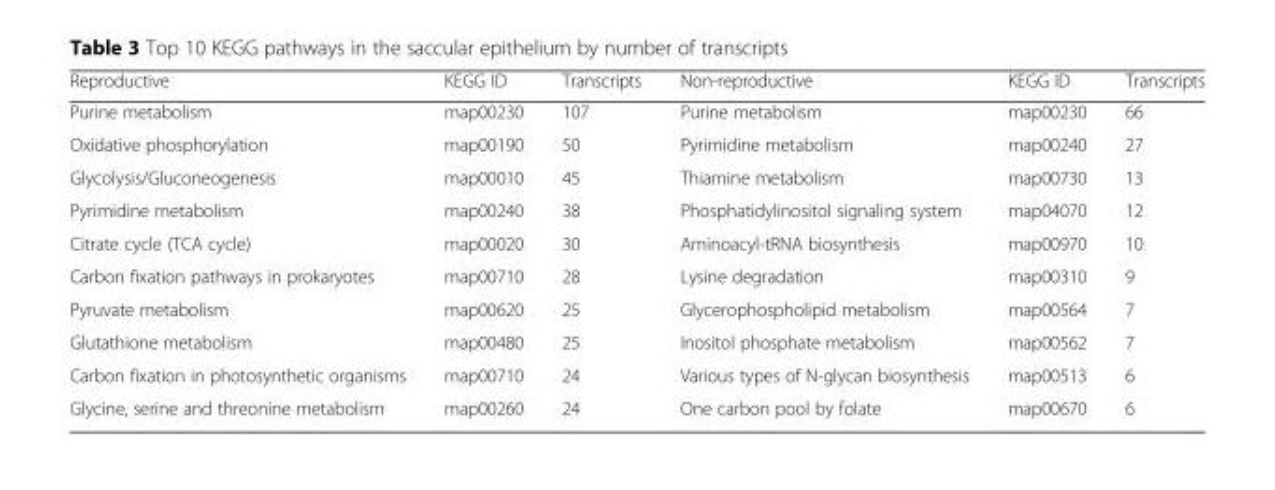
<table><thead><tr><td>Reproductive</td><td>KEGG ID</td><td>Transcripts</td><td>Non-reproductive</td><td>KEGG ID</td><td>Transcripts</td></tr></thead><tbody><tr><td>Purine metabolism</td><td>map00230</td><td>107</td><td>Purine metabolism</td><td>map00230</td><td>66</td></tr><tr><td>Oxidative phosphorylation</td><td>map00190</td><td>50</td><td>Pyrimidine metabolism</td><td>map00240</td><td>27</td></tr><tr><td>Glycolysis/Gluconeogenesis</td><td>map00010</td><td>45</td><td>Thiamine metabolism</td><td>map00730</td><td>13</td></tr><tr><td>Pyrimidine metabolism</td><td>map00240</td><td>38</td><td>Phosphatidylinositol signaling system</td><td>map04070</td><td>12</td></tr><tr><td>Citrate cycle (TCA cycle)</td><td>map00020</td><td>30</td><td>Aminoacyl-tRNA biosynthesis</td><td>map00970</td><td>10</td></tr><tr><td>Carbon fixation pathways in prokaryotes</td><td>map00710</td><td>28</td><td>Lysine degradation</td><td>map00310</td><td>9</td></tr><tr><td>Pyruvate metabolism</td><td>map00620</td><td>25</td><td>Glycerophospholipid metabolism</td><td>map00564</td><td>7</td></tr><tr><td>Glutathione metabolism</td><td>map00480</td><td>25</td><td>Inositol phosphate metabolism</td><td>map00562</td><td>7</td></tr><tr><td>Carbon fixation in photosynthetic organisms</td><td>map00710</td><td>24</td><td>Various types of N-glycan biosynthesis</td><td>map00513</td><td>6</td></tr><tr><td>Glycine, serine and threonine metabolism</td><td>map00260</td><td>24</td><td>One carbon pool by folate</td><td>map00670</td><td>6</td></tr></tbody></table>